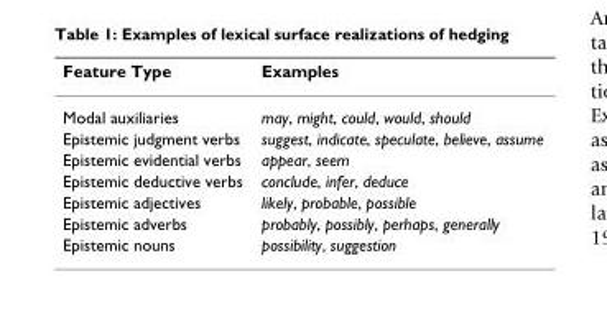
<table><thead><tr><td>Feature Type</td><td>Examples</td></tr></thead><tbody><tr><td>Modal auxiliaries</td><td>may, might, could, would, should</td></tr><tr><td>Epistemic judgment verbs</td><td>suggest, indicate, speculate, believe, assume</td></tr><tr><td>Epistemic evidential verbs</td><td>appear, seem</td></tr><tr><td>Epistemic deductive verbs</td><td>conclude, infer, deduce</td></tr><tr><td>Epistemic adjectives</td><td>likely, probable, possible</td></tr><tr><td>Epistemic adverbs</td><td>probably, possibly, perhaps, generally</td></tr><tr><td>Epistemic nouns</td><td>possibility, suggestion</td></tr></tbody></table>